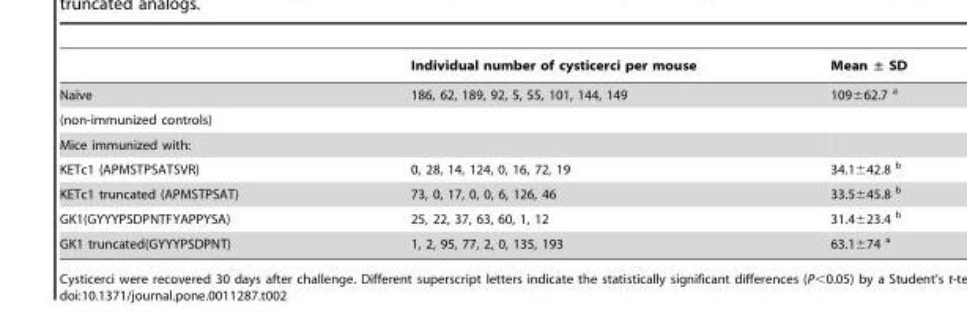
<table><thead><tr><td></td><td>Individual number of cysticerci per mouse</td><td>Mean ± SD</td></tr></thead><tbody><tr><td>Naı¨ve</td><td>186, 62, 189, 92, 5, 55, 101, 144, 149</td><td>109±62.7 <sup>a</sup></td></tr><tr><td colspan="3">(non-immunized controls)</td></tr><tr><td colspan="3">Mice immunized with:</td></tr><tr><td>KETc1 (APMSTPSATSVR)</td><td>0, 28, 14, 124, 0, 16, 72, 19</td><td>34.1±42.8 <sup>b</sup></td></tr><tr><td>KETc1 truncated (APMSTPSAT)</td><td>73, 0, 17, 0, 0, 6, 126, 46</td><td>33.5±45.8 <sup>b</sup></td></tr><tr><td>GK1(GYYYPSDPNTFYAPPYSA)</td><td>25, 22, 37, 63, 60, 1, 12</td><td>31.4±23.4 <sup>b</sup></td></tr><tr><td>GK1 truncated(GYYYPSDPNT)</td><td>1, 2, 95, 77, 2, 0, 135, 193</td><td>63.1±74 <sup>a</sup></td></tr></tbody></table>